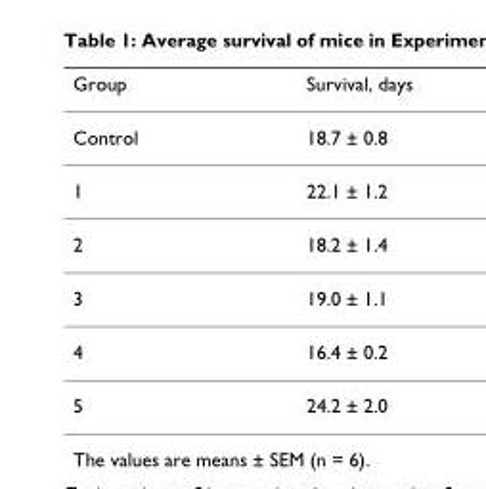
<table><thead><tr><td>Group</td><td>Survival, days</td></tr></thead><tbody><tr><td>Control</td><td>18.7 ± 0.8</td></tr><tr><td>1</td><td>22.1 ± 1.2</td></tr><tr><td>2</td><td>18.2 ± 1.4</td></tr><tr><td>3</td><td>19.0 ± 1.1</td></tr><tr><td>4</td><td>16.4 ± 0.2</td></tr><tr><td>5</td><td>24.2 ± 2.0</td></tr></tbody></table>